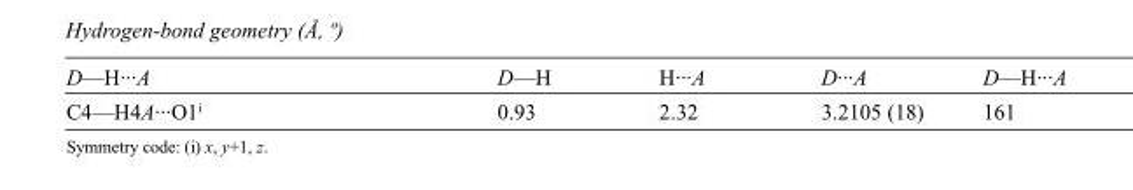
<table><tbody><tr><td>D—H···A</td><td>D—H</td><td>H···A</td><td>D···A</td><td>D—H···A</td></tr><tr><td>C4—H4A···O1<sup>i</sup></td><td>0.93</td><td>2.32</td><td>3.2105 (18)</td><td>161</td></tr></tbody></table>